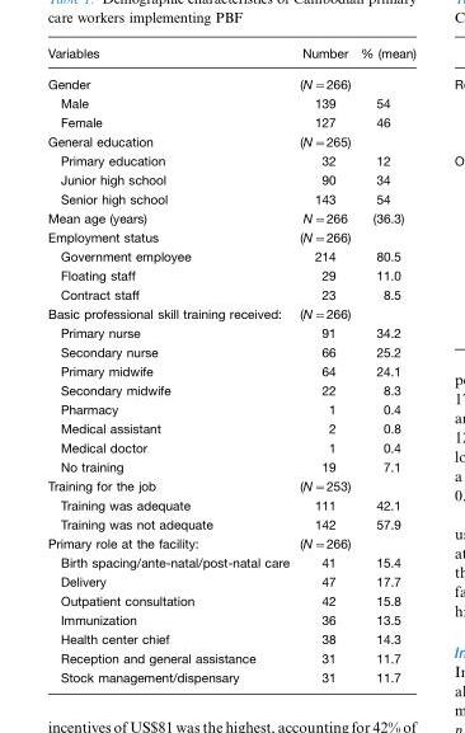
<table><thead><tr><td>Variables</td><td>Number</td><td>% (mean)</td></tr></thead><tbody><tr><td>Gender</td><td>(N=266)</td><td></td></tr><tr><td>Male</td><td>139</td><td>54</td></tr><tr><td>Female</td><td>127</td><td>46</td></tr><tr><td>General education</td><td>(N=265)</td><td></td></tr><tr><td>Primary education</td><td>32</td><td>12</td></tr><tr><td>Junior high school</td><td>90</td><td>34</td></tr><tr><td>Senior high school</td><td>143</td><td>54</td></tr><tr><td>Mean age (years)</td><td>N=266</td><td>(36.3)</td></tr><tr><td>Employment status</td><td>(N=266)</td><td></td></tr><tr><td>Government employee</td><td>214</td><td>80.5</td></tr><tr><td>Floating staff</td><td>29</td><td>11.0</td></tr><tr><td>Contract staff</td><td>23</td><td>8.5</td></tr><tr><td>Basic professional skill training received:</td><td>(N=266)</td><td></td></tr><tr><td>Primary nurse</td><td>91</td><td>34.2</td></tr><tr><td>Secondary nurse</td><td>66</td><td>25.2</td></tr><tr><td>Primary midwife</td><td>64</td><td>24.1</td></tr><tr><td>Secondary midwife</td><td>22</td><td>8.3</td></tr><tr><td>Pharmacy</td><td>1</td><td>0.4</td></tr><tr><td>Medical assistant</td><td>2</td><td>0.8</td></tr><tr><td>Medical doctor</td><td>1</td><td>0.4</td></tr><tr><td>No training</td><td>19</td><td>7.1</td></tr><tr><td>Training for the job</td><td>(N=253)</td><td></td></tr><tr><td>Training was adequate</td><td>111</td><td>42.1</td></tr><tr><td>Training was not adequate</td><td>142</td><td>57.9</td></tr><tr><td>Primary role at the facility:</td><td>(N=266)</td><td></td></tr><tr><td>Birth spacing/ante-natal/post-natal care</td><td>41</td><td>15.4</td></tr><tr><td>Delivery</td><td>47</td><td>17.7</td></tr><tr><td>Outpatient consultation</td><td>42</td><td>15.8</td></tr><tr><td>Immunization</td><td>36</td><td>13.5</td></tr><tr><td>Health center chief</td><td>38</td><td>14.3</td></tr><tr><td>Reception and general assistance</td><td>31</td><td>11.7</td></tr><tr><td>Stock management/dispensary</td><td>31</td><td>11.7</td></tr></tbody></table>